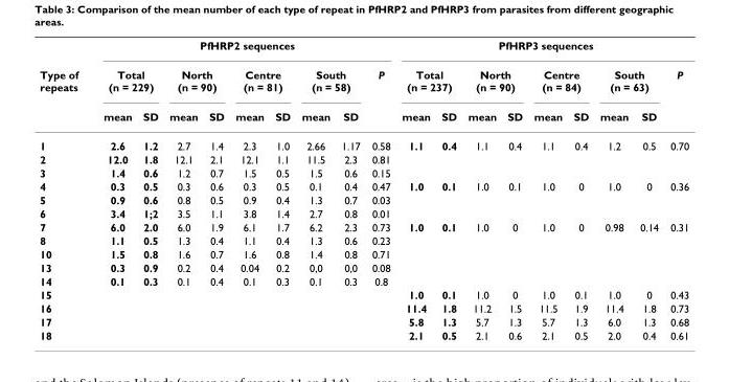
<table><thead><tr><td rowspan="3">Type of repeats</td><td colspan="9">PfHRP2 sequences</td><td colspan="9">PfHRP3 sequences</td></tr><tr><td colspan="2">Total (n = 229)</td><td colspan="2">North (n = 90)</td><td colspan="2">Centre (n = 81)</td><td colspan="2">South (n = 58)</td><td rowspan="2">P</td><td colspan="2">Total (n = 237)</td><td colspan="2">North (n = 90)</td><td colspan="2">Centre (n = 84)</td><td colspan="2">South (n = 63)</td><td rowspan="2">P</td></tr><tr><td>mean</td><td>SD</td><td>mean</td><td>SD</td><td>mean</td><td>SD</td><td>mean</td><td>SD</td><td>mean</td><td>SD</td><td>mean</td><td>SD</td><td>mean</td><td>SD</td><td>mean</td><td>SD</td></tr></thead><tbody><tr><td>1</td><td>2.6</td><td>1.2</td><td>2.7</td><td>1.4</td><td>2.3</td><td>1.0</td><td>2.66</td><td>1.17</td><td>0.58</td><td>1.1</td><td>0.4</td><td>1.1</td><td>0.4</td><td>1.1</td><td>0.4</td><td>1.2</td><td>0.5</td><td>0.70</td></tr><tr><td>2</td><td>12.0</td><td>1.8</td><td>12.1</td><td>2.1</td><td>12.1</td><td>1.1</td><td>11.5</td><td>2.3</td><td>0.81</td><td></td><td></td><td></td><td></td><td></td><td></td><td></td><td></td><td></td></tr><tr><td>3</td><td>1.4</td><td>0.6</td><td>1.2</td><td>0.7</td><td>1.5</td><td>0.5</td><td>1.5</td><td>0.6</td><td>0.15</td><td></td><td></td><td></td><td></td><td></td><td></td><td></td><td></td><td></td></tr><tr><td>4</td><td>0.3</td><td>0.5</td><td>0.3</td><td>0.6</td><td>0.3</td><td>0.5</td><td>0.1</td><td>0.4</td><td>0.47</td><td>1.0</td><td>0.1</td><td>1.0</td><td>0.1</td><td>1.0</td><td>0</td><td>1.0</td><td>0</td><td>0.36</td></tr><tr><td>5</td><td>0.9</td><td>0.6</td><td>0.8</td><td>0.5</td><td>0.9</td><td>0.4</td><td>1.3</td><td>0.7</td><td>0.03</td><td></td><td></td><td></td><td></td><td></td><td></td><td></td><td></td><td></td></tr><tr><td>6</td><td>3.4</td><td>1;2</td><td>3.5</td><td>1.1</td><td>3.8</td><td>1.4</td><td>2.7</td><td>0.8</td><td>0.01</td><td></td><td></td><td></td><td></td><td></td><td></td><td></td><td></td><td></td></tr><tr><td>7</td><td>6.0</td><td>2.0</td><td>6.0</td><td>1.9</td><td>6.1</td><td>1.7</td><td>6.2</td><td>2.3</td><td>0.73</td><td>1.0</td><td>0.1</td><td>1.0</td><td>0</td><td>1.0</td><td>0</td><td>0.98</td><td>0.14</td><td>0.31</td></tr><tr><td>8</td><td>1.1</td><td>0.5</td><td>1.3</td><td>0.4</td><td>1.1</td><td>0.4</td><td>1.3</td><td>0.6</td><td>0.23</td><td></td><td></td><td></td><td></td><td></td><td></td><td></td><td></td><td></td></tr><tr><td>10</td><td>1.5</td><td>0.8</td><td>1.6</td><td>0.7</td><td>1.6</td><td>0.8</td><td>1.4</td><td>0.8</td><td>0.71</td><td></td><td></td><td></td><td></td><td></td><td></td><td></td><td></td><td></td></tr><tr><td>13</td><td>0.3</td><td>0.9</td><td>0.2</td><td>0.4</td><td>0.04</td><td>0.2</td><td>0,0</td><td>0,0</td><td>0.08</td><td></td><td></td><td></td><td></td><td></td><td></td><td></td><td></td><td></td></tr><tr><td>14</td><td>0.1</td><td>0.3</td><td>0.1</td><td>0.4</td><td>0.1</td><td>0.3</td><td>0.1</td><td>0.3</td><td>0.8</td><td></td><td></td><td></td><td></td><td></td><td></td><td></td><td></td><td></td></tr><tr><td>15</td><td></td><td></td><td></td><td></td><td></td><td></td><td></td><td></td><td></td><td>1.0</td><td>0.1</td><td>1.0</td><td>0</td><td>1.0</td><td>0.1</td><td>1.0</td><td>0</td><td>0.43</td></tr><tr><td>16</td><td></td><td></td><td></td><td></td><td></td><td></td><td></td><td></td><td></td><td>11.4</td><td>1.8</td><td>11.2</td><td>1.5</td><td>11.5</td><td>1.9</td><td>11.4</td><td>1.8</td><td>0.73</td></tr><tr><td>17</td><td></td><td></td><td></td><td></td><td></td><td></td><td></td><td></td><td></td><td>5.8</td><td>1.3</td><td>5.7</td><td>1.3</td><td>5.7</td><td>1.3</td><td>6.0</td><td>1.3</td><td>0.68</td></tr><tr><td>18</td><td></td><td></td><td></td><td></td><td></td><td></td><td></td><td></td><td></td><td>2.1</td><td>0.5</td><td>2.1</td><td>0.6</td><td>2.1</td><td>0.5</td><td>2.0</td><td>0.4</td><td>0.61</td></tr></tbody></table>